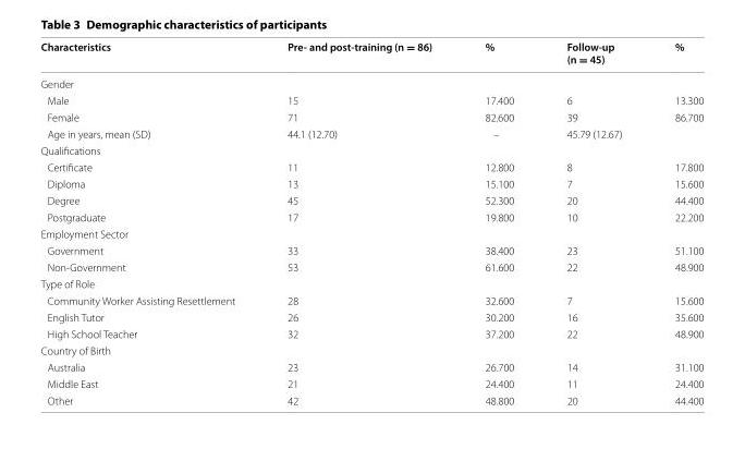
<table><thead><tr><td>Characteristics</td><td>Pre‑ and post‑training (n = 86)</td><td>%</td><td>Follow‑up (n = 45)</td><td>%</td></tr></thead><tbody><tr><td colspan="5">Gender</td></tr><tr><td>Male</td><td>15</td><td>17.400</td><td>6</td><td>13.300</td></tr><tr><td>Female</td><td>71</td><td>82.600</td><td>39</td><td>86.700</td></tr><tr><td>Age in years, mean (SD)</td><td>44.1 (12.70)</td><td>–</td><td>45.79 (12.67)</td><td></td></tr><tr><td colspan="5">Qualifications</td></tr><tr><td>Certificate</td><td>11</td><td>12.800</td><td>8</td><td>17.800</td></tr><tr><td>Diploma</td><td>13</td><td>15.100</td><td>7</td><td>15.600</td></tr><tr><td>Degree</td><td>45</td><td>52.300</td><td>20</td><td>44.400</td></tr><tr><td>Postgraduate</td><td>17</td><td>19.800</td><td>10</td><td>22.200</td></tr><tr><td colspan="5">Employment Sector</td></tr><tr><td>Government</td><td>33</td><td>38.400</td><td>23</td><td>51.100</td></tr><tr><td>Non‑Government</td><td>53</td><td>61.600</td><td>22</td><td>48.900</td></tr><tr><td colspan="5">Type of Role</td></tr><tr><td>Community Worker Assisting Resettlement</td><td>28</td><td>32.600</td><td>7</td><td>15.600</td></tr><tr><td>English Tutor</td><td>26</td><td>30.200</td><td>16</td><td>35.600</td></tr><tr><td>High School Teacher</td><td>32</td><td>37.200</td><td>22</td><td>48.900</td></tr><tr><td colspan="5">Country of Birth</td></tr><tr><td>Australia</td><td>23</td><td>26.700</td><td>14</td><td>31.100</td></tr><tr><td>Middle East</td><td>21</td><td>24.400</td><td>11</td><td>24.400</td></tr><tr><td>Other</td><td>42</td><td>48.800</td><td>20</td><td>44.400</td></tr></tbody></table>